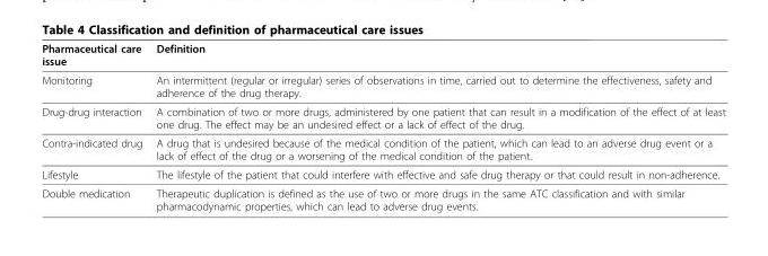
<table><thead><tr><td>Pharmaceutical care issue</td><td>Definition</td></tr></thead><tbody><tr><td>Monitoring</td><td>An intermittent (regular or irregular) series of observations in time, carried out to determine the effectiveness, safety and adherence of the drug therapy.</td></tr><tr><td>Drug-drug interaction</td><td>A combination of two or more drugs, administered by one patient that can result in a modification of the effect of at least one drug. The effect may be an undesired effect or a lack of effect of the drug.</td></tr><tr><td>Contra-indicated drug</td><td>A drug that is undesired because of the medical condition of the patient, which can lead to an adverse drug event or a lack of effect of the drug or a worsening of the medical condition of the patient.</td></tr><tr><td>Lifestyle</td><td>The lifestyle of the patient that could interfere with effective and safe drug therapy or that could result in non-adherence.</td></tr><tr><td>Double medication</td><td>Therapeutic duplication is defined as the use of two or more drugs in the same ATC classification and with similar pharmacodynamic properties, which can lead to adverse drug events.</td></tr></tbody></table>